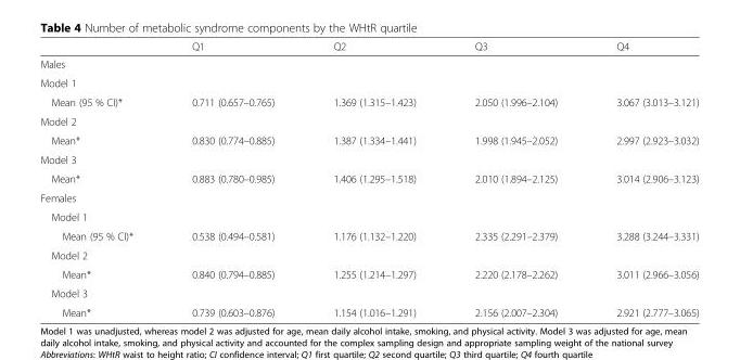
<table><thead><tr><td></td><td>Q1</td><td>Q2</td><td>Q3</td><td>Q4</td></tr></thead><tbody><tr><td colspan="5">Males</td></tr><tr><td colspan="5">Model 1</td></tr><tr><td>Mean (95 % CI)*</td><td>0.711 (0.657–0.765)</td><td>1.369 (1.315–1.423)</td><td>2.050 (1.996–2.104)</td><td>3.067 (3.013–3.121)</td></tr><tr><td colspan="5">Model 2</td></tr><tr><td>Mean*</td><td>0.830 (0.774–0.885)</td><td>1.387 (1.334–1.441)</td><td>1.998 (1.945–2.052)</td><td>2.997 (2.923–3.032)</td></tr><tr><td colspan="5">Model 3</td></tr><tr><td>Mean*</td><td>0.883 (0.780–0.985)</td><td>1.406 (1.295–1.518)</td><td>2.010 (1.894–2.125)</td><td>3.014 (2.906–3.123)</td></tr><tr><td colspan="5">Females</td></tr><tr><td colspan="5">Model 1</td></tr><tr><td>Mean (95 % CI)*</td><td>0.538 (0.494–0.581)</td><td>1.176 (1.132–1.220)</td><td>2.335 (2.291–2.379)</td><td>3.288 (3.244–3.331)</td></tr><tr><td colspan="5">Model 2</td></tr><tr><td>Mean*</td><td>0.840 (0.794–0.885)</td><td>1.255 (1.214–1.297)</td><td>2.220 (2.178–2.262)</td><td>3.011 (2.966–3.056)</td></tr><tr><td colspan="5">Model 3</td></tr><tr><td>Mean*</td><td>0.739 (0.603–0.876)</td><td>1.154 (1.016–1.291)</td><td>2.156 (2.007–2.304)</td><td>2.921 (2.777–3.065)</td></tr></tbody></table>